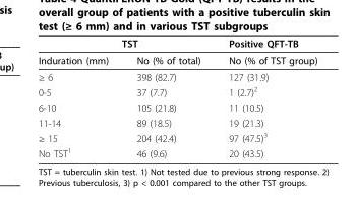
<table><thead><tr><td colspan="2">TST</td><td rowspan="2">Positive QFT-TB No (% of TST group)</td></tr><tr><td>Induration (mm)</td><td>No (% of total)</td></tr></thead><tbody><tr><td>≥ 6</td><td>398 (82.7)</td><td>127 (31.9)</td></tr><tr><td>0-5</td><td>37 (7.7)</td><td>1 (2.7)<sup>2</sup></td></tr><tr><td>6-10</td><td>105 (21.8)</td><td>11 (10.5)</td></tr><tr><td>11-14</td><td>89 (18.5)</td><td>19 (21.3)</td></tr><tr><td>≥ 15</td><td>204 (42.4)</td><td>97 (47.5)<sup>3</sup></td></tr><tr><td>No TST<sup>1</sup></td><td>46 (9.6)</td><td>20 (43.5)</td></tr></tbody></table>